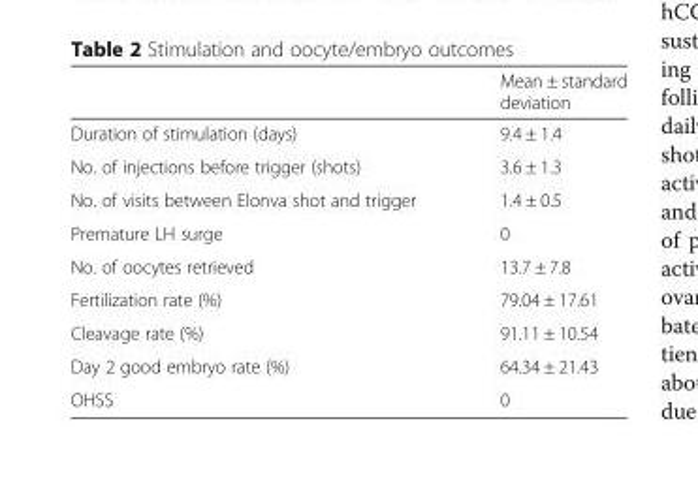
<table><thead><tr><td></td><td>Mean ± standard deviation</td></tr></thead><tbody><tr><td>Duration of stimulation (days)</td><td>9.4 ± 1.4</td></tr><tr><td>No. of injections before trigger (shots)</td><td>3.6 ± 1.3</td></tr><tr><td>No. of visits between Elonva shot and trigger</td><td>1.4 ± 0.5</td></tr><tr><td>Premature LH surge</td><td>0</td></tr><tr><td>No. of oocytes retrieved</td><td>13.7 ± 7.8</td></tr><tr><td>Fertilization rate (%)</td><td>79.04 ± 17.61</td></tr><tr><td>Cleavage rate (%)</td><td>91.11 ± 10.54</td></tr><tr><td>Day 2 good embryo rate (%)</td><td>64.34 ± 21.43</td></tr><tr><td>OHSS</td><td>0</td></tr></tbody></table>